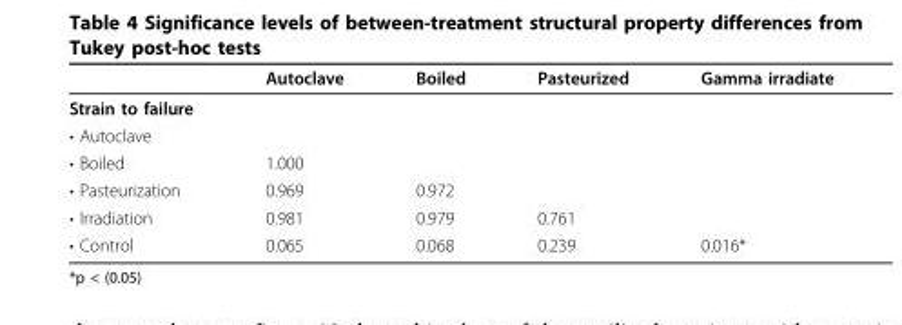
<table><thead><tr><td></td><td>Autoclave</td><td>Boiled</td><td>Pasteurized</td><td>Gamma irradiate</td></tr></thead><tbody><tr><td colspan="5">Strain to failure</td></tr><tr><td colspan="5">• Autoclave</td></tr><tr><td>• Boiled</td><td>1.000</td><td></td><td></td><td></td></tr><tr><td>• Pasteurization</td><td>0.969</td><td>0.972</td><td></td><td></td></tr><tr><td>• Irradiation</td><td>0.981</td><td>0.979</td><td>0.761</td><td></td></tr><tr><td>• Control</td><td>0.065</td><td>0.068</td><td>0.239</td><td>0.016*</td></tr></tbody></table>